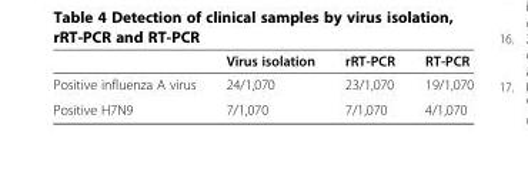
<table><thead><tr><td></td><td>Virus isolation</td><td>rRT-PCR</td><td>RT-PCR</td></tr></thead><tbody><tr><td>Positive influenza A virus</td><td>24/1,070</td><td>23/1,070</td><td>19/1,070</td></tr><tr><td>Positive H7N9</td><td>7/1,070</td><td>7/1,070</td><td>4/1,070</td></tr></tbody></table>